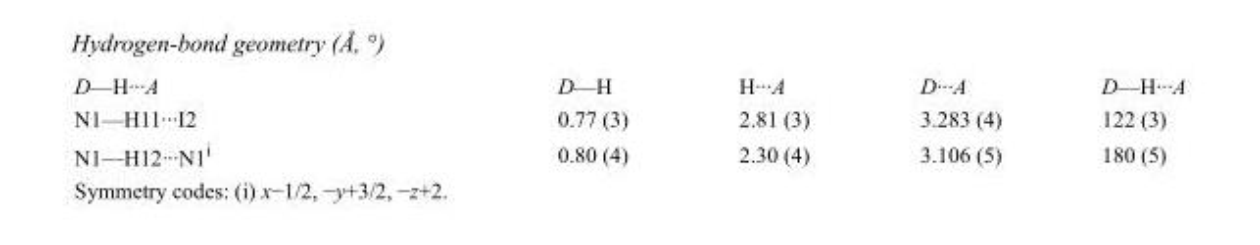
<table><tbody><tr><td>D—H···A</td><td>D—H</td><td>H···A</td><td>D···A</td><td>D—H···A</td></tr><tr><td>N1—H11···I2</td><td>0.77 (3)</td><td>2.81 (3)</td><td>3.283 (4)</td><td>122 (3)</td></tr><tr><td>N1—H12···N1<sup>i</sup></td><td>0.80 (4)</td><td>2.30 (4)</td><td>3.106 (5)</td><td>180 (5)</td></tr></tbody></table>